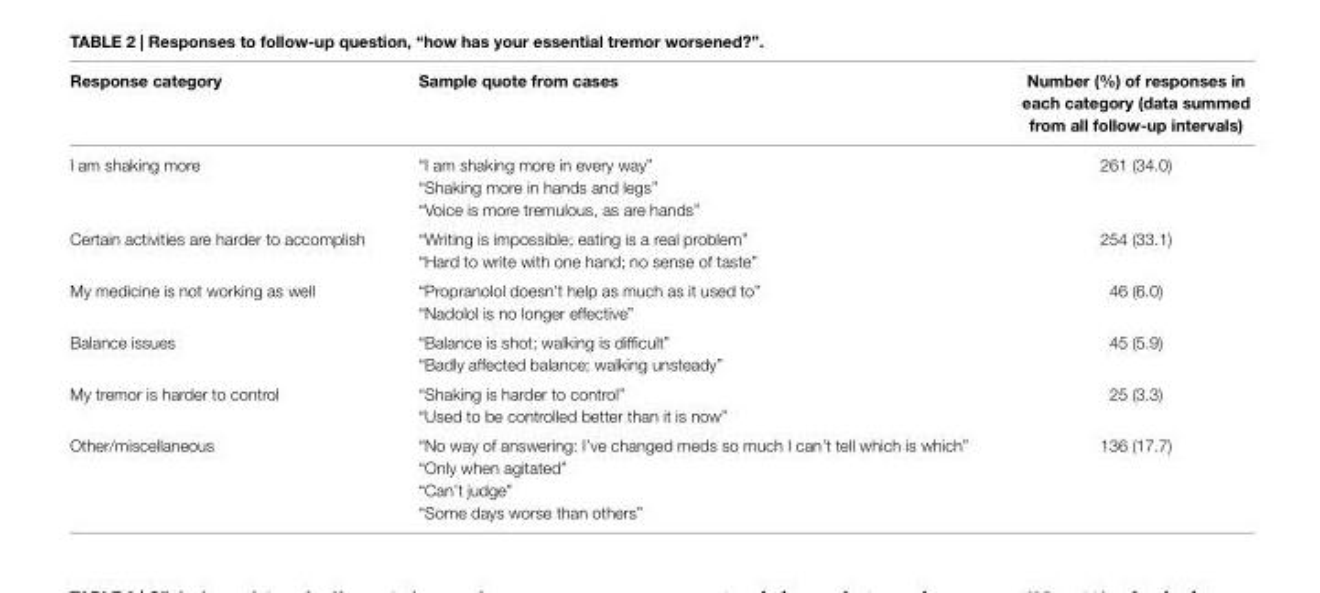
<table><thead><tr><td>response category</td><td>sample quote from cases</td><td>number (%) of responses in each category (data summed from all follow-up intervals)</td></tr></thead><tbody><tr><td rowspan="3">I am shaking more</td><td>“I am shaking more in every way”</td><td rowspan="3">261 (34.0)</td></tr><tr><td>“Shaking more in hands and legs”</td></tr><tr><td>“Voice is more tremulous, as are hands”</td></tr><tr><td rowspan="2">Certain activities are harder to accomplish</td><td>“Writing is impossible; eating is a real problem”</td><td rowspan="2">254 (33.1)</td></tr><tr><td>“Hard to write with one hand; no sense of taste”</td></tr><tr><td rowspan="2">My medicine is not working as well</td><td>“Propranolol doesn’t help as much as it used to”</td><td rowspan="2">46 (6.0)</td></tr><tr><td>“Nadolol is no longer effective”</td></tr><tr><td rowspan="2">Balance issues</td><td>“Balance is shot; walking is difficult”</td><td rowspan="2">45 (5.9)</td></tr><tr><td>“Badly affected balance; walking unsteady”</td></tr><tr><td rowspan="2">My tremor is harder to control</td><td>“Shaking is harder to control”</td><td rowspan="2">25 (3.3)</td></tr><tr><td>“Used to be controlled better than it is now”</td></tr><tr><td rowspan="4">Other/miscellaneous</td><td>“No way of answering: I’ve changed meds so much I can’t tell which is which”</td><td rowspan="4">136 (17.7)</td></tr><tr><td>“Only when agitated”</td></tr><tr><td>“Can’t judge”</td></tr><tr><td>“Some days worse than others”</td></tr></tbody></table>